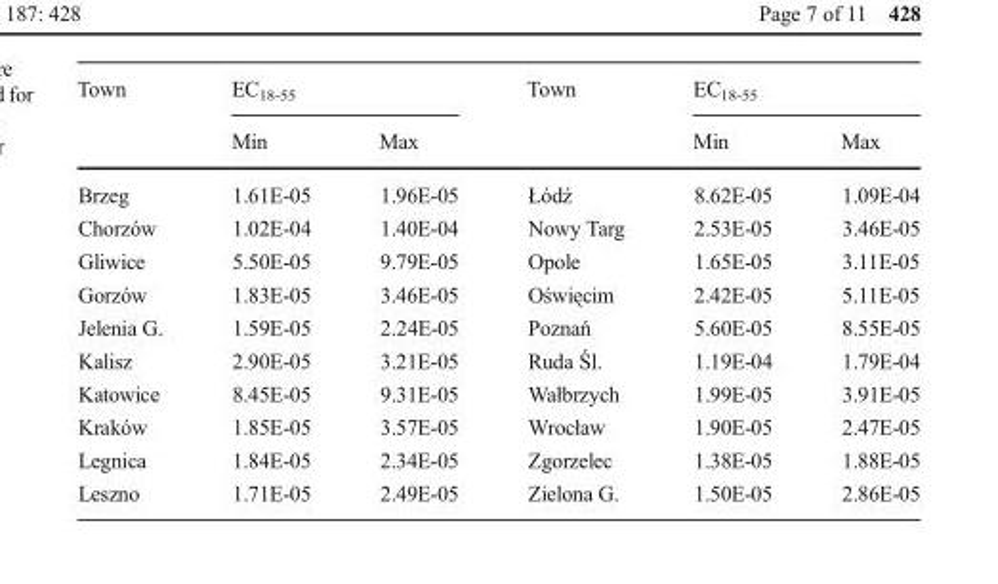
<table><thead><tr><td rowspan="2">Town</td><td colspan="2">EC<sub>18-55</sub></td><td rowspan="2">Town</td><td colspan="2">EC<sub>18-55</sub></td></tr><tr><td>Min</td><td>Max</td><td>Min</td><td>Max</td></tr></thead><tbody><tr><td>Brzeg</td><td>1.61E-05</td><td>1.96E-05</td><td>Łódź</td><td>8.62E-05</td><td>1.09E-04</td></tr><tr><td>Chorzów</td><td>1.02E-04</td><td>1.40E-04</td><td>Nowy Targ</td><td>2.53E-05</td><td>3.46E-05</td></tr><tr><td>Gliwice</td><td>5.50E-05</td><td>9.79E-05</td><td>Opole</td><td>1.65E-05</td><td>3.11E-05</td></tr><tr><td>Gorzów</td><td>1.83E-05</td><td>3.46E-05</td><td>Oświęcim</td><td>2.42E-05</td><td>5.11E-05</td></tr><tr><td>Jelenia G.</td><td>1.59E-05</td><td>2.24E-05</td><td>Poznań</td><td>5.60E-05</td><td>8.55E-05</td></tr><tr><td>Kalisz</td><td>2.90E-05</td><td>3.21E-05</td><td>Ruda Śl.</td><td>1.19E-04</td><td>1.79E-04</td></tr><tr><td>Katowice</td><td>8.45E-05</td><td>9.31E-05</td><td>Wałbrzych</td><td>1.99E-05</td><td>3.91E-05</td></tr><tr><td>Kraków</td><td>1.85E-05</td><td>3.57E-05</td><td>Wrocław</td><td>1.90E-05</td><td>2.47E-05</td></tr><tr><td>Legnica</td><td>1.84E-05</td><td>2.34E-05</td><td>Zgorzelec</td><td>1.38E-05</td><td>1.88E-05</td></tr><tr><td>Leszno</td><td>1.71E-05</td><td>2.49E-05</td><td>Zielona G.</td><td>1.50E-05</td><td>2.86E-05</td></tr></tbody></table>